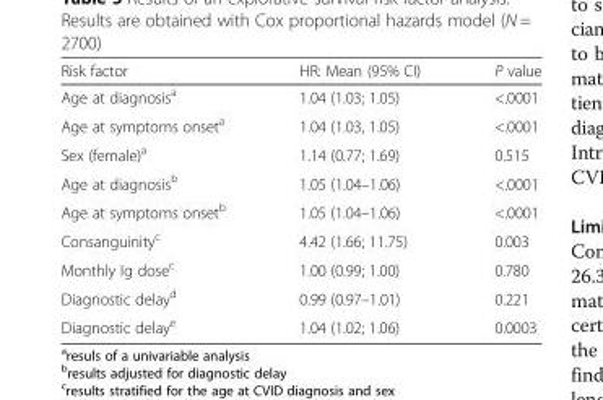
<table><thead><tr><td>Risk factor</td><td>HR: Mean (95% CI)</td><td>P value</td></tr></thead><tbody><tr><td>Age at diagnosis<sup>a</sup></td><td>1.04 (1.03; 1.05)</td><td>&lt;.0001</td></tr><tr><td>Age at symptoms onset<sup>a</sup></td><td>1.04 (1.03, 1.05)</td><td>&lt;.0001</td></tr><tr><td>Sex (female)<sup>a</sup></td><td>1.14 (0.77; 1.69)</td><td>0.515</td></tr><tr><td>Age at diagnosis<sup>b</sup></td><td>1.05 (1.04–1.06)</td><td>&lt;.0001</td></tr><tr><td>Age at symptoms onset<sup>b</sup></td><td>1.05 (1.04–1.06)</td><td>&lt;.0001</td></tr><tr><td>Consanguinity<sup>c</sup></td><td>4.42 (1.66; 11.75)</td><td>0.003</td></tr><tr><td>Monthly Ig dose<sup>c</sup></td><td>1.00 (0.99; 1.00)</td><td>0.780</td></tr><tr><td>Diagnostic delay<sup>d</sup></td><td>0.99 (0.97–1.01)</td><td>0.221</td></tr><tr><td>Diagnostic delay<sup>e</sup></td><td>1.04 (1.02; 1.06)</td><td>0.0003</td></tr></tbody></table>